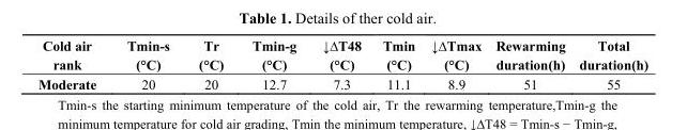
<table><thead><tr><td>Cold air rank</td><td>Tmin-s (°C)</td><td>Tr (°C)</td><td>Tmin-g (°C)</td><td>↓∆T48 (°C)</td><td>Tmin (°C)</td><td>↓∆Tmax (°C)</td><td>Rewarming duration(h)</td><td>Total duration(h)</td></tr></thead><tbody><tr><td>Moderate</td><td>20</td><td>20</td><td>12.7</td><td>7.3</td><td>11.1</td><td>8.9</td><td>51</td><td>55</td></tr></tbody></table>